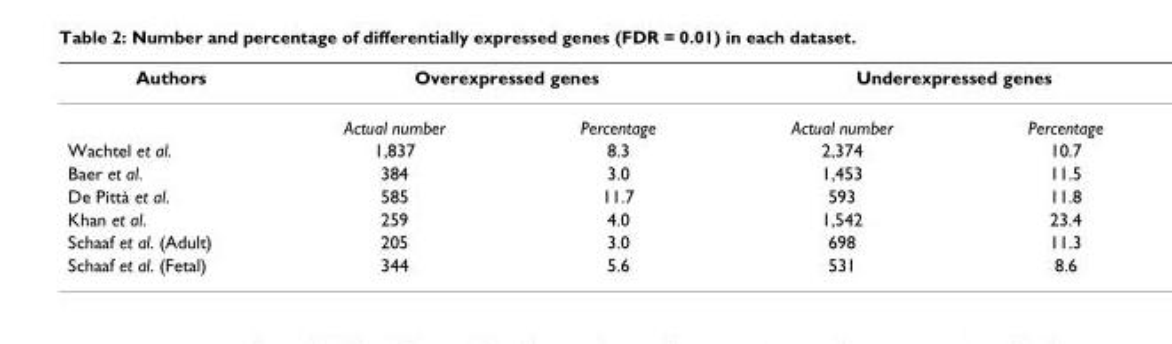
<table><thead><tr><td rowspan="2">Authors</td><td colspan="2">Overexpressed genes</td><td colspan="2">Underexpressed genes</td></tr><tr><td>Actual number</td><td>Percentage</td><td>Actual number</td><td>Percentage</td></tr></thead><tbody><tr><td>Wachtel et al.</td><td>1,837</td><td>8.3</td><td>2,374</td><td>10.7</td></tr><tr><td>Baer et al.</td><td>384</td><td>3.0</td><td>1,453</td><td>11.5</td></tr><tr><td>De Pittà et al.</td><td>585</td><td>11.7</td><td>593</td><td>11.8</td></tr><tr><td>Khan et al.</td><td>259</td><td>4.0</td><td>1,542</td><td>23.4</td></tr><tr><td>Schaaf et al. (Adult)</td><td>205</td><td>3.0</td><td>698</td><td>11.3</td></tr><tr><td>Schaaf et al. (Fetal)</td><td>344</td><td>5.6</td><td>531</td><td>8.6</td></tr></tbody></table>